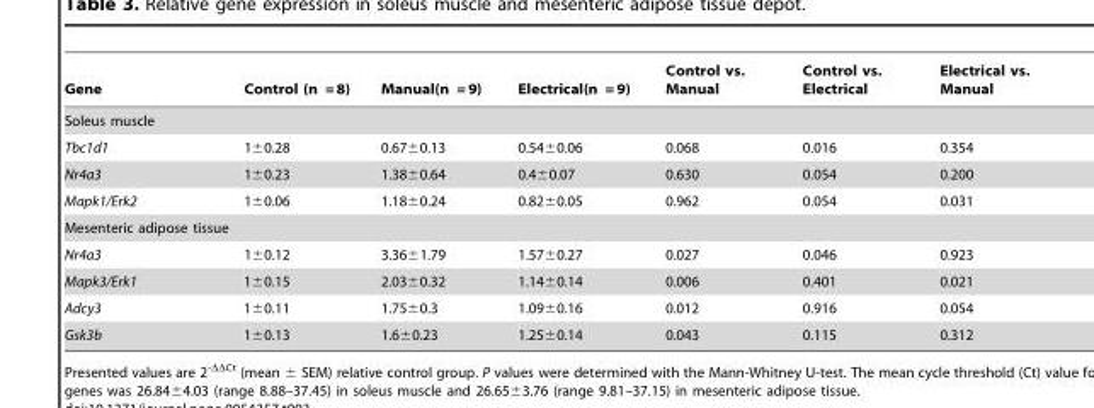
<table><thead><tr><td>Gene</td><td>Control (n = 8)</td><td>Manual(n = 9)</td><td>Electrical(n = 9)</td><td>Control vs. Manual</td><td>Control vs. Electrical</td><td>Electrical vs. Manual</td></tr></thead><tbody><tr><td colspan="7">Soleus muscle</td></tr><tr><td>Tbc1d1</td><td>1±0.28</td><td>0.67±0.13</td><td>0.54±0.06</td><td>0.068</td><td>0.016</td><td>0.354</td></tr><tr><td>Nr4a3</td><td>1±0.23</td><td>1.38±0.64</td><td>0.4±0.07</td><td>0.630</td><td>0.054</td><td>0.200</td></tr><tr><td>Mapk1/Erk2</td><td>1±0.06</td><td>1.18±0.24</td><td>0.82±0.05</td><td>0.962</td><td>0.054</td><td>0.031</td></tr><tr><td colspan="7">Mesenteric adipose tissue</td></tr><tr><td>Nr4a3</td><td>1±0.12</td><td>3.36±1.79</td><td>1.57±0.27</td><td>0.027</td><td>0.046</td><td>0.923</td></tr><tr><td>Mapk3/Erk1</td><td>1±0.15</td><td>2.03±0.32</td><td>1.14±0.14</td><td>0.006</td><td>0.401</td><td>0.021</td></tr><tr><td>Adcy3</td><td>1±0.11</td><td>1.75±0.3</td><td>1.09±0.16</td><td>0.012</td><td>0.916</td><td>0.054</td></tr><tr><td>Gsk3b</td><td>1±0.13</td><td>1.6±0.23</td><td>1.25±0.14</td><td>0.043</td><td>0.115</td><td>0.312</td></tr></tbody></table>